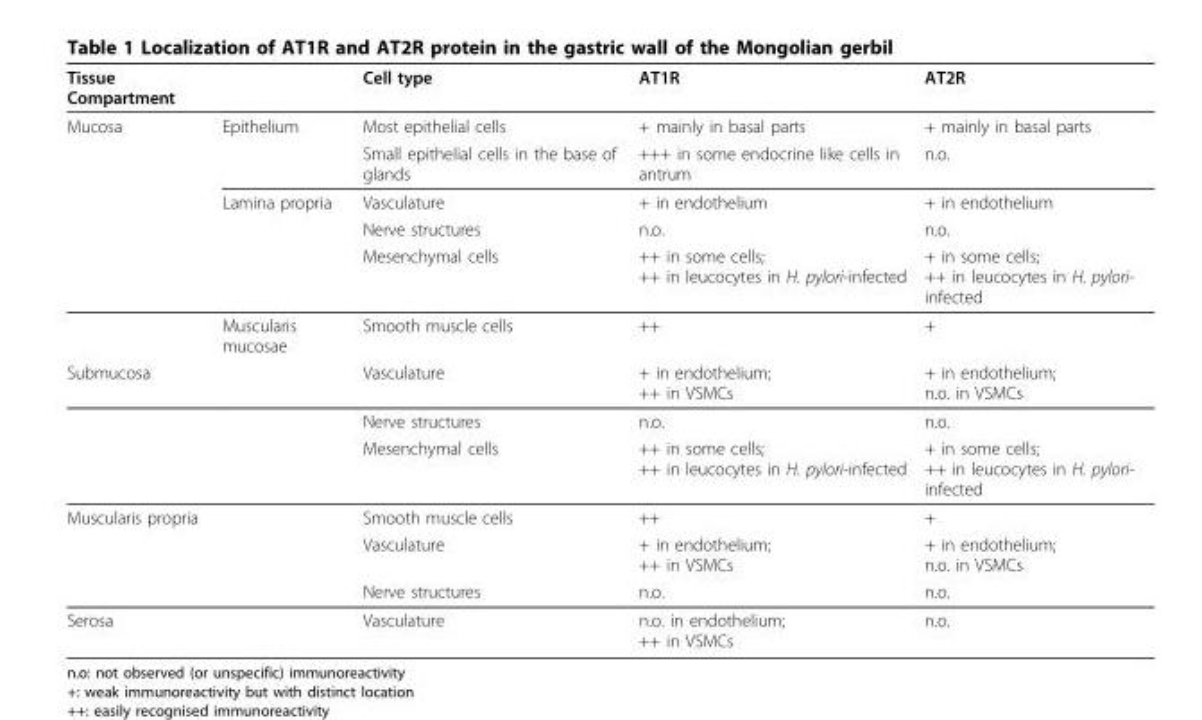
<table><thead><tr><td>Tissue Compartment</td><td></td><td>Cell type</td><td>AT1R</td><td>AT2R</td></tr></thead><tbody><tr><td rowspan="6">Mucosa</td><td>Epithelium</td><td>Most epithelial cells</td><td>+ mainly in basal parts</td><td>+ mainly in basal parts</td></tr><tr><td></td><td>Small epithelial cells in the base of glands</td><td>+++ in some endocrine like cells in antrum</td><td>n.o.</td></tr><tr><td>Lamina propria</td><td>Vasculature</td><td>+ in endothelium</td><td>+ in endothelium</td></tr><tr><td></td><td>Nerve structures</td><td>n.o.</td><td>n.o.</td></tr><tr><td></td><td>Mesenchymal cells</td><td>++ in some cells; ++ in leucocytes in H. pylori-infected</td><td>+ in some cells; ++ in leucocytes in H. pylori- infected</td></tr><tr><td>Muscularis mucosae</td><td>Smooth muscle cells</td><td>++</td><td>+</td></tr><tr><td rowspan="3">Submucosa</td><td></td><td>Vasculature</td><td>+ in endothelium; ++ in VSMCs</td><td>+ in endothelium; n.o. in VSMCs</td></tr><tr><td></td><td>Nerve structures</td><td>n.o.</td><td>n.o.</td></tr><tr><td></td><td>Mesenchymal cells</td><td>++ in some cells; ++ in leucocytes in H. pylori-infected</td><td>+ in some cells; ++ in leucocytes in H. pylori- infected</td></tr><tr><td rowspan="3">Muscularis propria</td><td></td><td>Smooth muscle cells</td><td>++</td><td>+</td></tr><tr><td></td><td>Vasculature</td><td>+ in endothelium; ++ in VSMCs</td><td>+ in endothelium; n.o. in VSMCs</td></tr><tr><td></td><td>Nerve structures</td><td>n.o.</td><td>n.o.</td></tr><tr><td>Serosa</td><td></td><td>Vasculature</td><td>n.o. in endothelium; ++ in VSMCs</td><td>n.o.</td></tr></tbody></table>